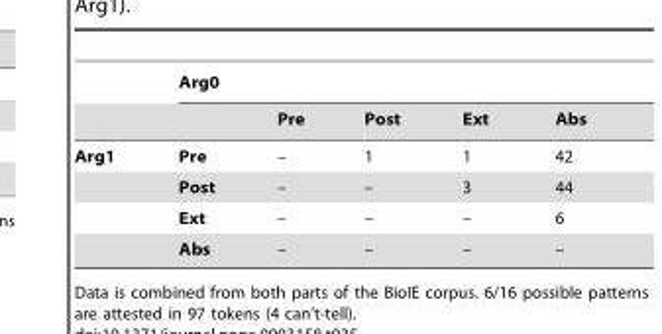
<table><thead><tr><td rowspan="2"></td><td colspan="5">Arg0</td></tr><tr><td></td><td>Pre</td><td>Post</td><td>Ext</td><td>Abs</td></tr></thead><tbody><tr><td rowspan="4">Arg1</td><td>Pre</td><td>–</td><td>1</td><td>1</td><td>42</td></tr><tr><td>Post</td><td>–</td><td>–</td><td>3</td><td>44</td></tr><tr><td>Ext</td><td>–</td><td>–</td><td>–</td><td>6</td></tr><tr><td>Abs</td><td>–</td><td>–</td><td>–</td><td>–</td></tr></tbody></table>